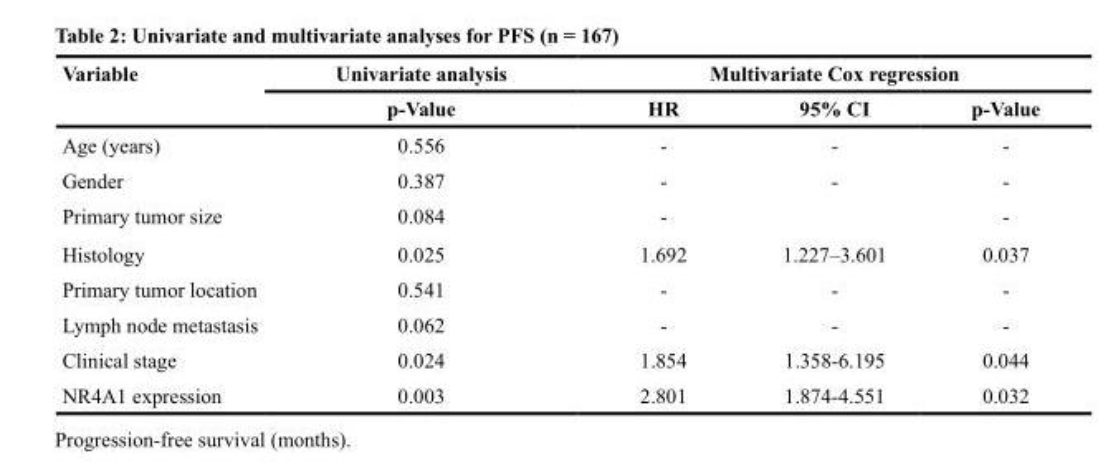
<table><thead><tr><td rowspan="2">Variable</td><td rowspan="2">Univariate analysis p-Value</td><td colspan="3">Multivariate Cox regression</td></tr><tr><td>HR</td><td>95% CI</td><td>p-Value</td></tr></thead><tbody><tr><td>Age (years)</td><td>0.556</td><td>-</td><td>-</td><td>-</td></tr><tr><td>Gender</td><td>0.387</td><td>-</td><td>-</td><td>-</td></tr><tr><td>Primary tumor size</td><td>0.084</td><td>-</td><td></td><td>-</td></tr><tr><td>Histology</td><td>0.025</td><td>1.692</td><td>1.227–3.601</td><td>0.037</td></tr><tr><td>Primary tumor location</td><td>0.541</td><td>-</td><td>-</td><td>-</td></tr><tr><td>Lymph node metastasis</td><td>0.062</td><td>-</td><td>-</td><td>-</td></tr><tr><td>Clinical stage</td><td>0.024</td><td>1.854</td><td>1.358-6.195</td><td>0.044</td></tr><tr><td>NR4A1 expression</td><td>0.003</td><td>2.801</td><td>1.874-4.551</td><td>0.032</td></tr></tbody></table>